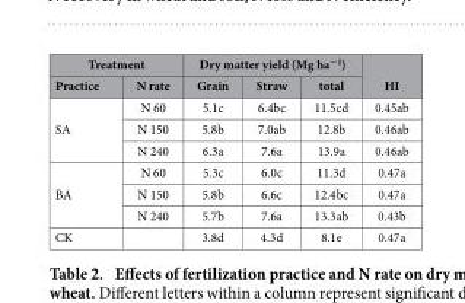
<table><thead><tr><td colspan="2">Treatment</td><td colspan="3">Dry matter yield (Mg ha<sup>−1</sup>)</td><td rowspan="2">HI</td></tr><tr><td>Practice</td><td>N rate</td><td>Grain</td><td>Straw</td><td>total</td></tr></thead><tbody><tr><td rowspan="3">SA</td><td>N 60</td><td>5.1c</td><td>6.4bc</td><td>11.5cd</td><td>0.45ab</td></tr><tr><td>N 150</td><td>5.8b</td><td>7.0ab</td><td>12.8b</td><td>0.46ab</td></tr><tr><td>N 240</td><td>6.3a</td><td>7.6a</td><td>13.9a</td><td>0.46ab</td></tr><tr><td rowspan="3">BA</td><td>N 60</td><td>5.3c</td><td>6.0c</td><td>11.3d</td><td>0.47a</td></tr><tr><td>N 150</td><td>5.8b</td><td>6.6c</td><td>12.4bc</td><td>0.47a</td></tr><tr><td>N 240</td><td>5.7b</td><td>7.6a</td><td>13.3ab</td><td>0.43b</td></tr><tr><td>CK</td><td></td><td>3.8d</td><td>4.3d</td><td>8.1e</td><td>0.47a</td></tr></tbody></table>